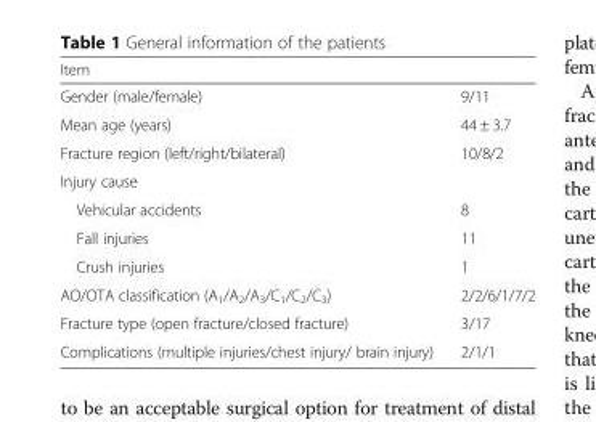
<table><thead><tr><td>Item</td><td></td></tr></thead><tbody><tr><td>Gender (male/female)</td><td>9/11</td></tr><tr><td>Mean age (years)</td><td>44 ± 3.7</td></tr><tr><td>Fracture region (left/right/bilateral)</td><td>10/8/2</td></tr><tr><td colspan="2">Injury cause</td></tr><tr><td>Vehicular accidents</td><td>8</td></tr><tr><td>Fall injuries</td><td>11</td></tr><tr><td>Crush injuries</td><td>1</td></tr><tr><td>AO/OTA classification (A<sub>1</sub>/A<sub>2</sub>/A<sub>3</sub>/C<sub>1</sub>/C<sub>2</sub>/C<sub>3</sub>)</td><td>2/2/6/1/7/2</td></tr><tr><td>Fracture type (open fracture/closed fracture)</td><td>3/17</td></tr><tr><td>Complications (multiple injuries/chest injury/ brain injury)</td><td>2/1/1</td></tr></tbody></table>